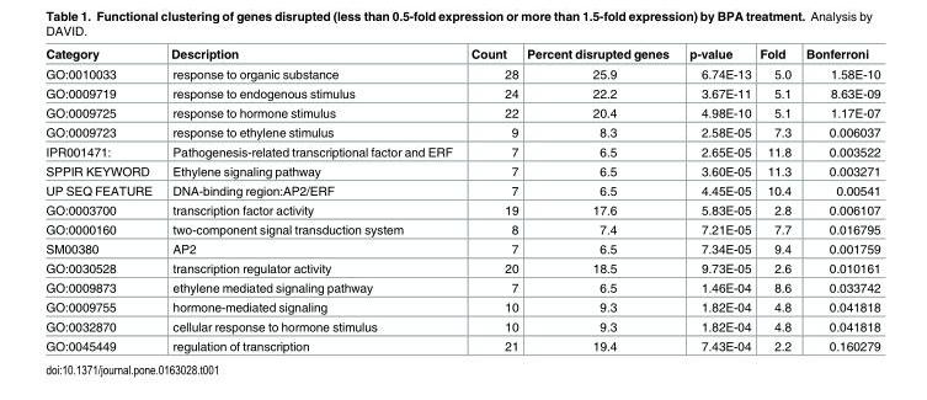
<table><thead><tr><td>Category</td><td>Description</td><td>Count</td><td>Percent disrupted genes</td><td>p-value</td><td>Fold</td><td>Bonferroni</td></tr></thead><tbody><tr><td>GO:0010033</td><td>response to organic substance</td><td>28</td><td>25.9</td><td>6.74E-13</td><td>5.0</td><td>1.58E-10</td></tr><tr><td>GO:0009719</td><td>response to endogenous stimulus</td><td>24</td><td>22.2</td><td>3.67E-11</td><td>5.1</td><td>8.63E-09</td></tr><tr><td>GO:0009725</td><td>response to hormone stimulus</td><td>22</td><td>20.4</td><td>4.98E-10</td><td>5.1</td><td>1.17E-07</td></tr><tr><td>GO:0009723</td><td>response to ethylene stimulus</td><td>9</td><td>8.3</td><td>2.58E-05</td><td>7.3</td><td>0.006037</td></tr><tr><td>IPR001471:</td><td>Pathogenesis-related transcriptional factor and ERF</td><td>7</td><td>6.5</td><td>2.65E-05</td><td>11.8</td><td>0.003522</td></tr><tr><td>SPPIR KEYWORD</td><td>Ethylene signaling pathway</td><td>7</td><td>6.5</td><td>3.60E-05</td><td>11.3</td><td>0.003271</td></tr><tr><td>UP SEQ FEATURE</td><td>DNA-binding region:AP2/ERF</td><td>7</td><td>6.5</td><td>4.45E-05</td><td>10.4</td><td>0.00541</td></tr><tr><td>GO:0003700</td><td>transcription factor activity</td><td>19</td><td>17.6</td><td>5.83E-05</td><td>2.8</td><td>0.006107</td></tr><tr><td>GO:0000160</td><td>two-component signal transduction system</td><td>8</td><td>7.4</td><td>7.21E-05</td><td>7.7</td><td>0.016795</td></tr><tr><td>SM00380</td><td>AP2</td><td>7</td><td>6.5</td><td>7.34E-05</td><td>9.4</td><td>0.001759</td></tr><tr><td>GO:0030528</td><td>transcription regulator activity</td><td>20</td><td>18.5</td><td>9.73E-05</td><td>2.6</td><td>0.010161</td></tr><tr><td>GO:0009873</td><td>ethylene mediated signaling pathway</td><td>7</td><td>6.5</td><td>1.46E-04</td><td>8.6</td><td>0.033742</td></tr><tr><td>GO:0009755</td><td>hormone-mediated signaling</td><td>10</td><td>9.3</td><td>1.82E-04</td><td>4.8</td><td>0.041818</td></tr><tr><td>GO:0032870</td><td>cellular response to hormone stimulus</td><td>10</td><td>9.3</td><td>1.82E-04</td><td>4.8</td><td>0.041818</td></tr><tr><td>GO:0045449</td><td>regulation of transcription</td><td>21</td><td>19.4</td><td>7.43E-04</td><td>2.2</td><td>0.160279</td></tr></tbody></table>